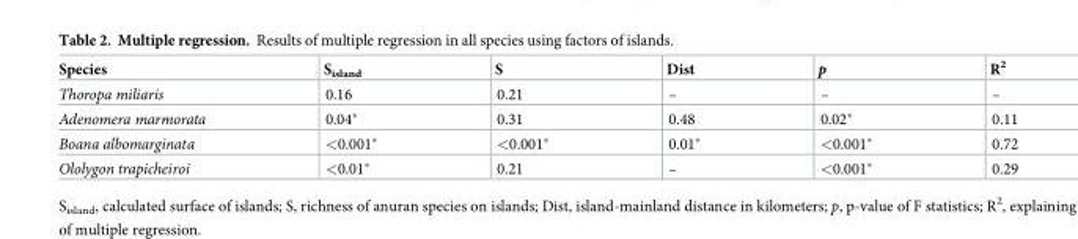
<table><thead><tr><td>Species</td><td>S<sub>island</sub></td><td>S</td><td>Dist</td><td>p</td><td>R<sup>2</sup></td></tr></thead><tbody><tr><td>Thoropa miliaris</td><td>0.16</td><td>0.21</td><td>–</td><td>–</td><td>–</td></tr><tr><td>Adenomera marmorata</td><td>0.04*</td><td>0.31</td><td>0.48</td><td>0.02*</td><td>0.11</td></tr><tr><td>Boana albomarginata</td><td>&lt;0.001*</td><td>&lt;0.001*</td><td>0.01*</td><td>&lt;0.001*</td><td>0.72</td></tr><tr><td>Ololygon trapicheiroi</td><td>&lt;0.01*</td><td>0.21</td><td>–</td><td>&lt;0.001*</td><td>0.29</td></tr></tbody></table>